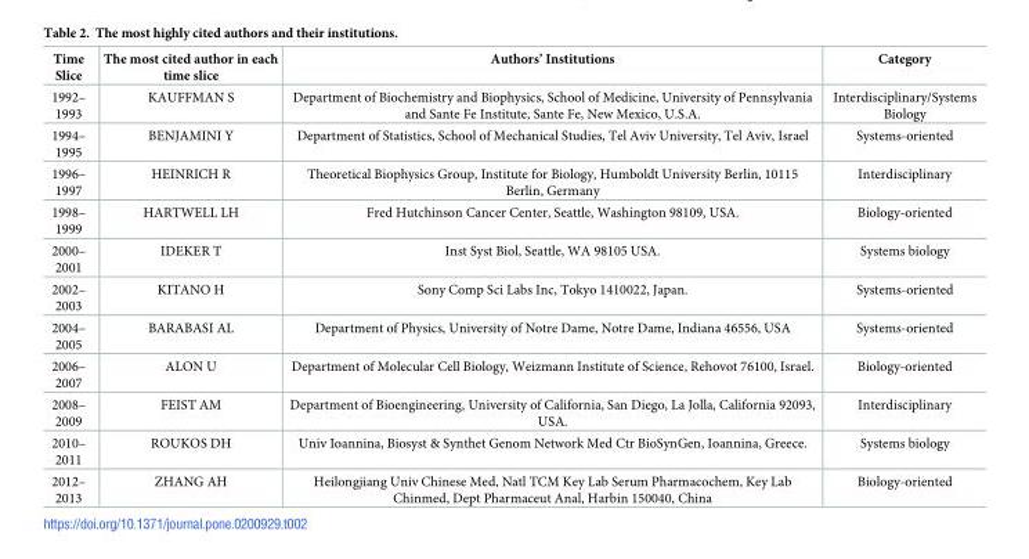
<table><thead><tr><td>Time Slice</td><td>The most cited author in each time slice</td><td>Authors’ Institutions</td><td>Category</td></tr></thead><tbody><tr><td>1992– 1993</td><td>KAUFFMAN S</td><td>Department of Biochemistry and Biophysics, School of Medicine, University of Pennsylvania and Sante Fe Institute, Sante Fe, New Mexico, U.S.A.</td><td>Interdisciplinary/Systems Biology</td></tr><tr><td>1994– 1995</td><td>BENJAMINI Y</td><td>Department of Statistics, School of Mechanical Studies, Tel Aviv University, Tel Aviv, Israel</td><td>Systems-oriented</td></tr><tr><td>1996– 1997</td><td>HEINRICH R</td><td>Theoretical Biophysics Group, Institute for Biology, Humboldt University Berlin, 10115 Berlin, Germany</td><td>Interdisciplinary</td></tr><tr><td>1998– 1999</td><td>HARTWELL LH</td><td>Fred Hutchinson Cancer Center, Seattle, Washington 98109, USA.</td><td>Biology-oriented</td></tr><tr><td>2000– 2001</td><td>IDEKER T</td><td>Inst Syst Biol, Seattle, WA 98105 USA.</td><td>Systems biology</td></tr><tr><td>2002– 2003</td><td>KITANO H</td><td>Sony Comp Sci Labs Inc, Tokyo 1410022, Japan.</td><td>Systems-oriented</td></tr><tr><td>2004– 2005</td><td>BARABASI AL</td><td>Department of Physics, University of Notre Dame, Notre Dame, Indiana 46556, USA</td><td>Systems-oriented</td></tr><tr><td>2006– 2007</td><td>ALON U</td><td>Department of Molecular Cell Biology, Weizmann Institute of Science, Rehovot 76100, Israel.</td><td>Biology-oriented</td></tr><tr><td>2008– 2009</td><td>FEIST AM</td><td>Department of Bioengineering, University of California, San Diego, La Jolla, California 92093, USA.</td><td>Interdisciplinary</td></tr><tr><td>2010– 2011</td><td>ROUKOS DH</td><td>Univ Ioannina, Biosyst &amp; Synthet Genom Network Med Ctr BioSynGen, Ioannina, Greece.</td><td>Systems biology</td></tr><tr><td>2012– 2013</td><td>ZHANG AH</td><td>Heilongjiang Univ Chinese Med, Natl TCM Key Lab Serum Pharmacochem, Key Lab Chinmed, Dept Pharmaceut Anal, Harbin 150040, China</td><td>Biology-oriented</td></tr></tbody></table>